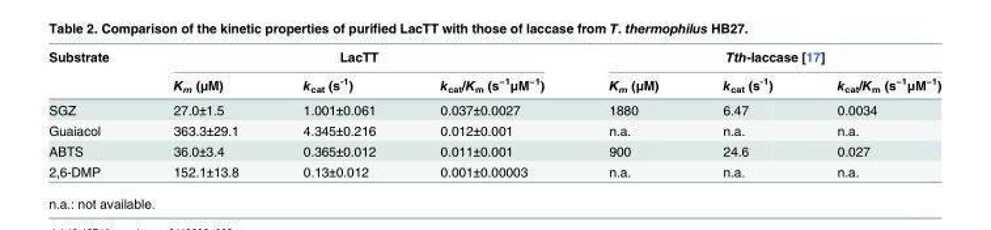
<table><thead><tr><td rowspan="2">Substrate</td><td colspan="3">LacTT</td><td colspan="3">Tth-laccase [17]</td></tr><tr><td>K<sub>m</sub> (μM)</td><td>k<sub>cat</sub> (s<sup>-1</sup>)</td><td>k<sub>cat</sub>/K<sub>m</sub> (s<sup>−1</sup>μM<sup>−1</sup>)</td><td>K<sub>m</sub> (μM)</td><td>k<sub>cat</sub> (s<sup>-1</sup>)</td><td>k<sub>cat</sub>/K<sub>m</sub> (s<sup>−1</sup>μM<sup>−1</sup>)</td></tr></thead><tbody><tr><td>SGZ</td><td>27.0±1.5</td><td>1.001±0.061</td><td>0.037±0.0027</td><td>1880</td><td>6.47</td><td>0.0034</td></tr><tr><td>Guaiacol</td><td>363.3±29.1</td><td>4.345±0.216</td><td>0.012±0.001</td><td>n.a.</td><td>n.a.</td><td>n.a.</td></tr><tr><td>ABTS</td><td>36.0±3.4</td><td>0.365±0.012</td><td>0.011±0.001</td><td>900</td><td>24.6</td><td>0.027</td></tr><tr><td>2,6-DMP</td><td>152.1±13.8</td><td>0.13±0.012</td><td>0.001±0.00003</td><td>n.a.</td><td>n.a.</td><td>n.a.</td></tr></tbody></table>